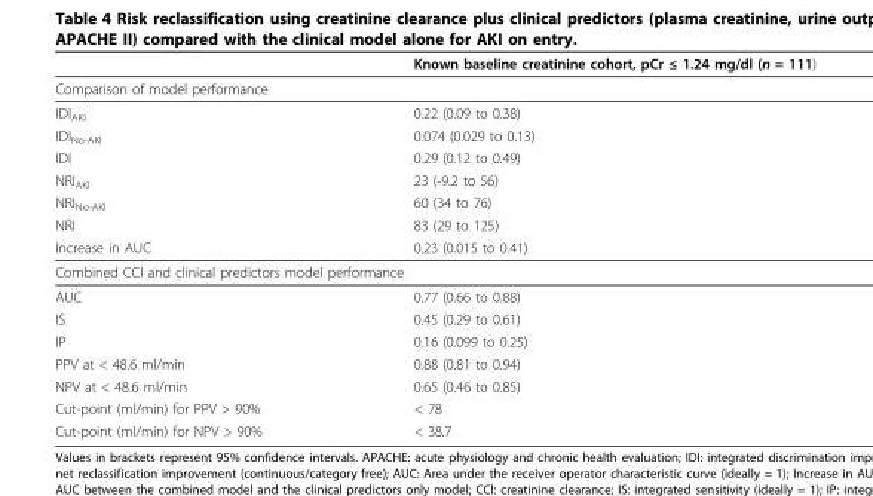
<table><thead><tr><td></td><td>Known baseline creatinine cohort, pCr ≤ 1.24 mg/dl (n = 111)</td></tr></thead><tbody><tr><td colspan="2">Comparison of model performance</td></tr><tr><td>IDI<sub>AKI</sub></td><td>0.22 (0.09 to 0.38)</td></tr><tr><td>IDI<sub>No-AKI</sub></td><td>0.074 (0.029 to 0.13)</td></tr><tr><td>IDI</td><td>0.29 (0.12 to 0.49)</td></tr><tr><td>NRI<sub>AKI</sub></td><td>23 (-9.2 to 56)</td></tr><tr><td>NRI<sub>No-AKI</sub></td><td>60 (34 to 76)</td></tr><tr><td>NRI</td><td>83 (29 to 125)</td></tr><tr><td>Increase in AUC</td><td>0.23 (0.015 to 0.41)</td></tr><tr><td colspan="2">Combined CCl and clinical predictors model performance</td></tr><tr><td>AUC</td><td>0.77 (0.66 to 0.88)</td></tr><tr><td>IS</td><td>0.45 (0.29 to 0.61)</td></tr><tr><td>IP</td><td>0.16 (0.099 to 0.25)</td></tr><tr><td>PPV at &lt; 48.6 ml/min</td><td>0.88 (0.81 to 0.94)</td></tr><tr><td>NPV at &lt; 48.6 ml/min</td><td>0.65 (0.46 to 0.85)</td></tr><tr><td>Cut-point (ml/min) for PPV &gt; 90%</td><td>&lt; 78</td></tr><tr><td>Cut-point (ml/min) for NPV &gt; 90%</td><td>&lt; 38.7</td></tr></tbody></table>